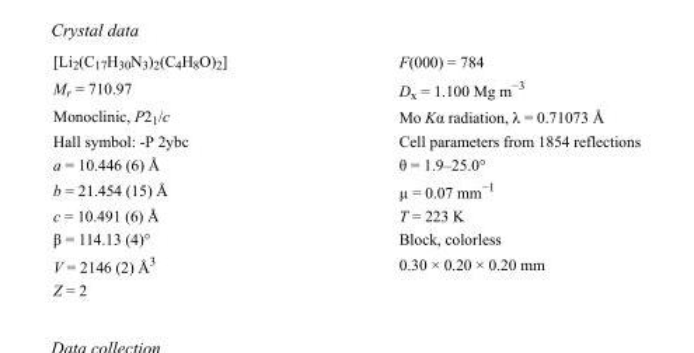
<table><tbody><tr><td>[Li<sub>2</sub>(C<sub>17</sub>H<sub>30</sub>N<sub>3</sub>)<sub>2</sub>(C<sub>4</sub>H<sub>8</sub>O)<sub>2</sub>]</td><td>F(000) = 784</td></tr><tr><td>M<sub>r</sub> = 710.97</td><td>D<sub>x</sub> = 1.100 Mg m<sup>−3</sup></td></tr><tr><td>Monoclinic, P2<sub>1</sub>/c</td><td>Mo Kα radiation, λ = 0.71073 Å</td></tr><tr><td>Hall symbol: -P 2ybc</td><td>Cell parameters from 1854 reflections</td></tr><tr><td>a = 10.446 (6) Å</td><td>θ = 1.9–25.0°</td></tr><tr><td>b = 21.454 (15) Å</td><td>µ = 0.07 mm<sup>−1</sup></td></tr><tr><td>c = 10.491 (6) Å</td><td>T = 223 K</td></tr><tr><td>β = 114.13 (4)°</td><td>Block, colorless</td></tr><tr><td>V = 2146 (2) Å<sup>3</sup></td><td>0.30 × 0.20 × 0.20 mm</td></tr><tr><td>Z = 2</td><td></td></tr></tbody></table>